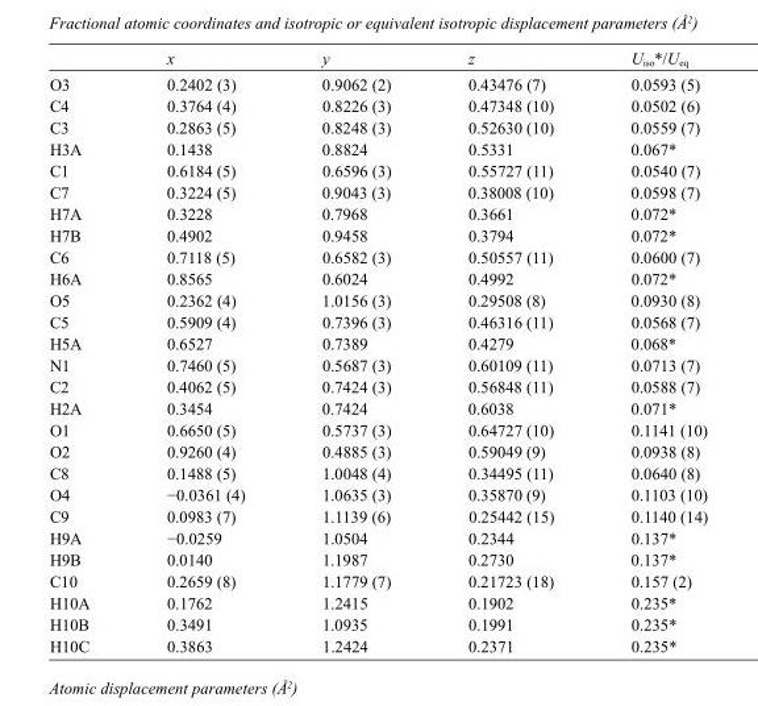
<table><thead><tr><td></td><td>x</td><td>y</td><td>z</td><td>U<sub>iso</sub>*/U<sub>eq</sub></td></tr></thead><tbody><tr><td>O3</td><td>0.2402 (3)</td><td>0.9062 (2)</td><td>0.43476 (7)</td><td>0.0593 (5)</td></tr><tr><td>C4</td><td>0.3764 (4)</td><td>0.8226 (3)</td><td>0.47348 (10)</td><td>0.0502 (6)</td></tr><tr><td>C3</td><td>0.2863 (5)</td><td>0.8248 (3)</td><td>0.52630 (10)</td><td>0.0559 (7)</td></tr><tr><td>H3A</td><td>0.1438</td><td>0.8824</td><td>0.5331</td><td>0.067*</td></tr><tr><td>C1</td><td>0.6184 (5)</td><td>0.6596 (3)</td><td>0.55727 (11)</td><td>0.0540 (7)</td></tr><tr><td>C7</td><td>0.3224 (5)</td><td>0.9043 (3)</td><td>0.38008 (10)</td><td>0.0598 (7)</td></tr><tr><td>H7A</td><td>0.3228</td><td>0.7968</td><td>0.3661</td><td>0.072*</td></tr><tr><td>H7B</td><td>0.4902</td><td>0.9458</td><td>0.3794</td><td>0.072*</td></tr><tr><td>C6</td><td>0.7118 (5)</td><td>0.6582 (3)</td><td>0.50557 (11)</td><td>0.0600 (7)</td></tr><tr><td>H6A</td><td>0.8565</td><td>0.6024</td><td>0.4992</td><td>0.072*</td></tr><tr><td>O5</td><td>0.2362 (4)</td><td>1.0156 (3)</td><td>0.29508 (8)</td><td>0.0930 (8)</td></tr><tr><td>C5</td><td>0.5909 (4)</td><td>0.7396 (3)</td><td>0.46316 (11)</td><td>0.0568 (7)</td></tr><tr><td>H5A</td><td>0.6527</td><td>0.7389</td><td>0.4279</td><td>0.068*</td></tr><tr><td>N1</td><td>0.7460 (5)</td><td>0.5687 (3)</td><td>0.60109 (11)</td><td>0.0713 (7)</td></tr><tr><td>C2</td><td>0.4062 (5)</td><td>0.7424 (3)</td><td>0.56848 (11)</td><td>0.0588 (7)</td></tr><tr><td>H2A</td><td>0.3454</td><td>0.7424</td><td>0.6038</td><td>0.071*</td></tr><tr><td>O1</td><td>0.6650 (5)</td><td>0.5737 (3)</td><td>0.64727 (10)</td><td>0.1141 (10)</td></tr><tr><td>O2</td><td>0.9260 (4)</td><td>0.4885 (3)</td><td>0.59049 (9)</td><td>0.0938 (8)</td></tr><tr><td>C8</td><td>0.1488 (5)</td><td>1.0048 (4)</td><td>0.34495 (11)</td><td>0.0640 (8)</td></tr><tr><td>O4</td><td>−0.0361 (4)</td><td>1.0635 (3)</td><td>0.35870 (9)</td><td>0.1103 (10)</td></tr><tr><td>C9</td><td>0.0983 (7)</td><td>1.1139 (6)</td><td>0.25442 (15)</td><td>0.1140 (14)</td></tr><tr><td>H9A</td><td>−0.0259</td><td>1.0504</td><td>0.2344</td><td>0.137*</td></tr><tr><td>H9B</td><td>0.0140</td><td>1.1987</td><td>0.2730</td><td>0.137*</td></tr><tr><td>C10</td><td>0.2659 (8)</td><td>1.1779 (7)</td><td>0.21723 (18)</td><td>0.157 (2)</td></tr><tr><td>H10A</td><td>0.1762</td><td>1.2415</td><td>0.1902</td><td>0.235*</td></tr><tr><td>H10B</td><td>0.3491</td><td>1.0935</td><td>0.1991</td><td>0.235*</td></tr><tr><td>H10C</td><td>0.3863</td><td>1.2424</td><td>0.2371</td><td>0.235*</td></tr></tbody></table>